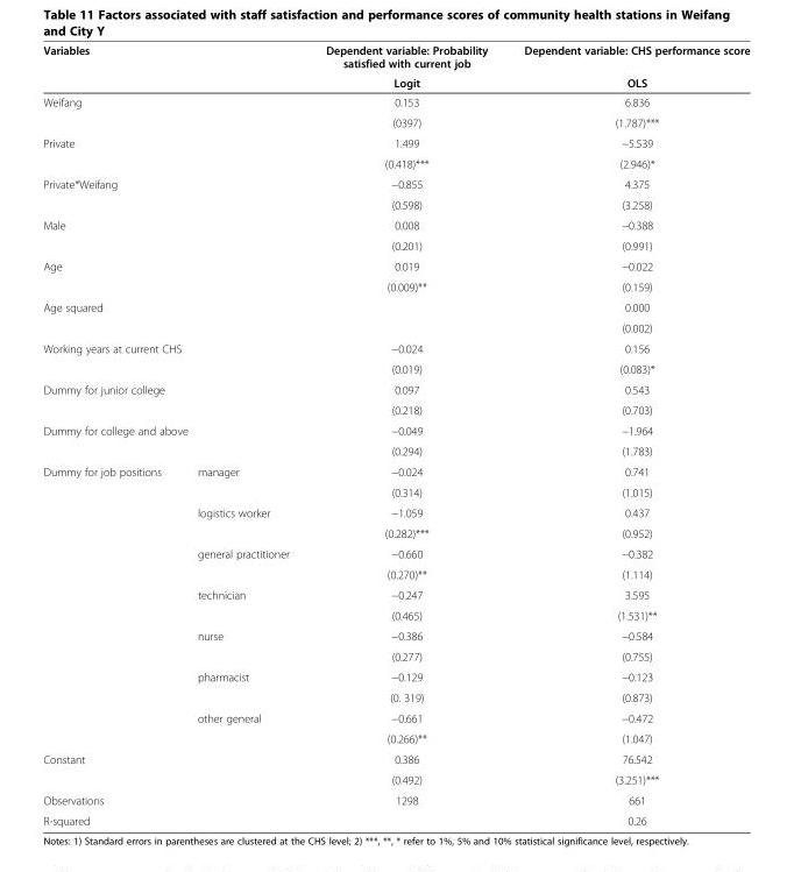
<table><thead><tr><td rowspan="2">Variables</td><td rowspan="2"></td><td rowspan="2">Dependent variable: Probability satisfied with current job Logit</td><td rowspan="2">Dependent variable: CHS performance score OLS</td></tr><tr></tr></thead><tbody><tr><td rowspan="2" colspan="2">Weifang</td><td>0.153</td><td>6.836</td></tr><tr><td>(0397)</td><td>(1.787)***</td></tr><tr><td rowspan="2" colspan="2">Private</td><td>1.499</td><td>−5.539</td></tr><tr><td>(0.418)***</td><td>(2.946)*</td></tr><tr><td rowspan="2" colspan="2">Private*Weifang</td><td>−0.855</td><td>4.375</td></tr><tr><td>(0.598)</td><td>(3.258)</td></tr><tr><td rowspan="2" colspan="2">Male</td><td>0.008</td><td>−0.388</td></tr><tr><td>(0.201)</td><td>(0.991)</td></tr><tr><td rowspan="2" colspan="2">Age</td><td>0.019</td><td>−0.022</td></tr><tr><td>(0.009)**</td><td>(0.159)</td></tr><tr><td rowspan="2" colspan="2">Age squared</td><td></td><td>0.000</td></tr><tr><td></td><td>(0.002)</td></tr><tr><td rowspan="2" colspan="2">Working years at current CHS</td><td>−0.024</td><td>0.156</td></tr><tr><td>(0.019)</td><td>(0.083)*</td></tr><tr><td rowspan="2" colspan="2">Dummy for junior college</td><td>0.097</td><td>0.543</td></tr><tr><td>(0.218)</td><td>(0.703)</td></tr><tr><td rowspan="2" colspan="2">Dummy for college and above</td><td>−0.049</td><td>−1.964</td></tr><tr><td>(0.294)</td><td>(1.783)</td></tr><tr><td rowspan="13">Dummy for job positions</td><td>manager</td><td>−0.024</td><td>0.741</td></tr><tr><td></td><td>(0.314)</td><td>(1.015)</td></tr><tr><td>logistics worker</td><td>−1.059</td><td>0.437</td></tr><tr><td></td><td>(0.282)***</td><td>(0.952)</td></tr><tr><td>general practitioner</td><td>−0.660</td><td>−0.382</td></tr><tr><td></td><td>(0.270)**</td><td>(1.114)</td></tr><tr><td>technician</td><td>−0.247</td><td>3.595</td></tr><tr><td></td><td>(0.465)</td><td>(1.531)**</td></tr><tr><td>nurse</td><td>−0.386</td><td>−0.584</td></tr><tr><td></td><td>(0.277)</td><td>(0.755)</td></tr><tr><td>pharmacist</td><td>−0.129</td><td>−0.123</td></tr><tr><td></td><td>(0. 319)</td><td>(0.873)</td></tr><tr><td>other general</td><td>−0.661</td><td>−0.472</td></tr><tr><td colspan="2"></td><td>(0.266)**</td><td>(1.047)</td></tr><tr><td rowspan="2" colspan="2">Constant</td><td>0.386</td><td>76.542</td></tr><tr><td>(0.492)</td><td>(3.251)***</td></tr><tr><td colspan="2">Observations</td><td>1298</td><td>661</td></tr><tr><td colspan="2">R-squared</td><td></td><td>0.26</td></tr></tbody></table>